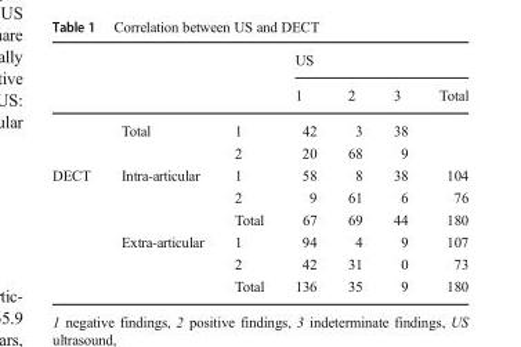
<table><thead><tr><td rowspan="2"></td><td rowspan="2"></td><td rowspan="2"></td><td colspan="4">US</td></tr><tr><td>1</td><td>2</td><td>3</td><td>Total</td></tr></thead><tbody><tr><td></td><td>Total</td><td>1</td><td>42</td><td>3</td><td>38</td><td></td></tr><tr><td></td><td></td><td>2</td><td>20</td><td>68</td><td>9</td><td></td></tr><tr><td rowspan="6">DECT</td><td>Intra-articular</td><td>1</td><td>58</td><td>8</td><td>38</td><td>104</td></tr><tr><td></td><td>2</td><td>9</td><td>61</td><td>6</td><td>76</td></tr><tr><td></td><td>Total</td><td>67</td><td>69</td><td>44</td><td>180</td></tr><tr><td>Extra-articular</td><td>1</td><td>94</td><td>4</td><td>9</td><td>107</td></tr><tr><td></td><td>2</td><td>42</td><td>31</td><td>0</td><td>73</td></tr><tr><td></td><td>Total</td><td>136</td><td>35</td><td>9</td><td>180</td></tr></tbody></table>